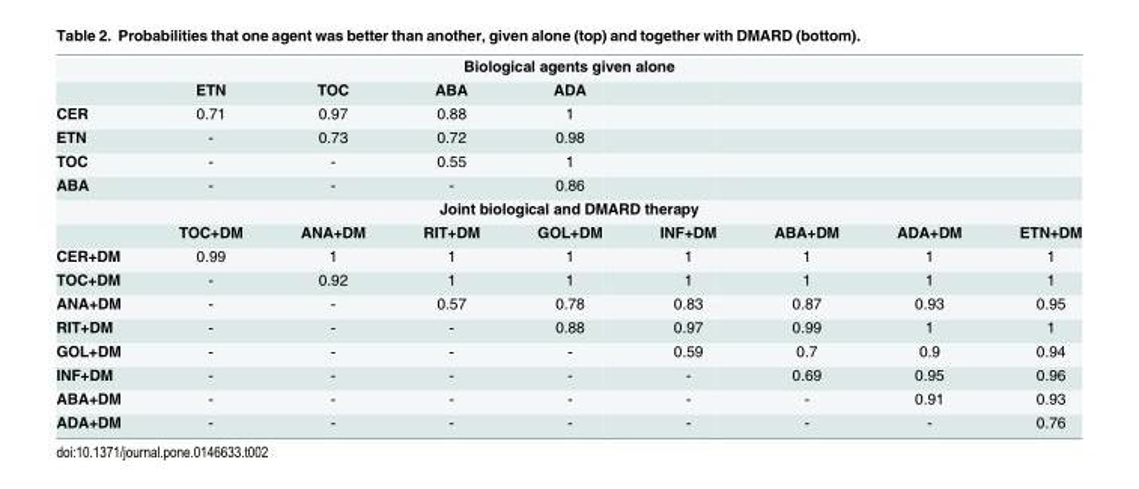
<table><tbody><tr><td colspan="9">Biological agents given alone</td></tr><tr><td></td><td>ETN</td><td>TOC</td><td>ABA</td><td>ADA</td><td></td><td></td><td></td><td></td></tr><tr><td>CER</td><td>0.71</td><td>0.97</td><td>0.88</td><td>1</td><td></td><td></td><td></td><td></td></tr><tr><td>ETN</td><td>-</td><td>0.73</td><td>0.72</td><td>0.98</td><td></td><td></td><td></td><td></td></tr><tr><td>TOC</td><td>-</td><td>-</td><td>0.55</td><td>1</td><td></td><td></td><td></td><td></td></tr><tr><td>ABA</td><td>-</td><td>-</td><td>-</td><td>0.86</td><td></td><td></td><td></td><td></td></tr><tr><td colspan="9">Joint biological and DMARD therapy</td></tr><tr><td></td><td>TOC+DM</td><td>ANA+DM</td><td>RIT+DM</td><td>GOL+DM</td><td>INF+DM</td><td>ABA+DM</td><td>ADA+DM</td><td>ETN+DM</td></tr><tr><td>CER+DM</td><td>0.99</td><td>1</td><td>1</td><td>1</td><td>1</td><td>1</td><td>1</td><td>1</td></tr><tr><td>TOC+DM</td><td>-</td><td>0.92</td><td>1</td><td>1</td><td>1</td><td>1</td><td>1</td><td>1</td></tr><tr><td>ANA+DM</td><td>-</td><td>-</td><td>0.57</td><td>0.78</td><td>0.83</td><td>0.87</td><td>0.93</td><td>0.95</td></tr><tr><td>RIT+DM</td><td>-</td><td>-</td><td>-</td><td>0.88</td><td>0.97</td><td>0.99</td><td>1</td><td>1</td></tr><tr><td>GOL+DM</td><td>-</td><td>-</td><td>-</td><td>-</td><td>0.59</td><td>0.7</td><td>0.9</td><td>0.94</td></tr><tr><td>INF+DM</td><td>-</td><td>-</td><td>-</td><td>-</td><td>-</td><td>0.69</td><td>0.95</td><td>0.96</td></tr><tr><td>ABA+DM</td><td>-</td><td>-</td><td>-</td><td>-</td><td>-</td><td>-</td><td>0.91</td><td>0.93</td></tr><tr><td>ADA+DM</td><td>-</td><td>-</td><td>-</td><td>-</td><td>-</td><td>-</td><td>-</td><td>0.76</td></tr></tbody></table>